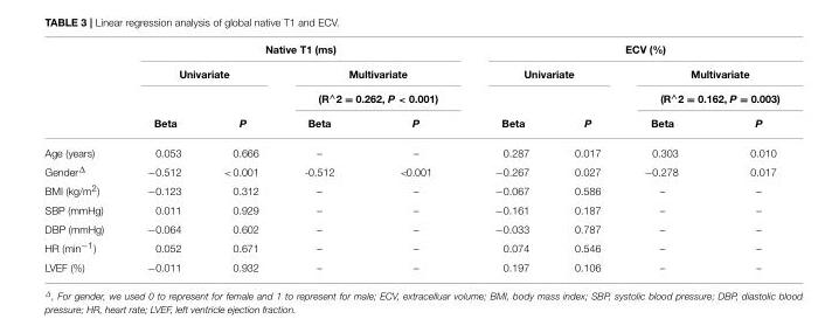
<table><thead><tr><td rowspan="4"></td><td colspan="4">Native T1 (ms)</td><td colspan="4">ECV (%)</td></tr><tr><td colspan="2">Univariate</td><td rowspan="2" colspan="2">Multivariate (R<sup>∧</sup>2 = 0.262, P &lt; 0.001)</td><td colspan="2">Univariate</td><td rowspan="2" colspan="2">Multivariate (R<sup>∧</sup>2 = 0.162, P = 0.003)</td></tr><tr><td rowspan="2">Beta</td><td rowspan="2">P</td><td rowspan="2">Beta</td><td rowspan="2">P</td></tr><tr><td>Beta</td><td>P</td><td>Beta</td><td>P</td></tr></thead><tbody><tr><td>Age (years)</td><td>0.053</td><td>0.666</td><td>–</td><td>–</td><td>0.287</td><td>0.017</td><td>0.303</td><td>0.010</td></tr><tr><td>Gender<sup>Δ</sup></td><td>−0.512</td><td>&lt;0.001</td><td>-0.512</td><td>&lt;0.001</td><td>−0.267</td><td>0.027</td><td>−0.278</td><td>0.017</td></tr><tr><td>BMI (kg/m<sup>2</sup>)</td><td>−0.123</td><td>0.312</td><td>–</td><td>–</td><td>−0.067</td><td>0.586</td><td>–</td><td>–</td></tr><tr><td>SBP (mmHg)</td><td>0.011</td><td>0.929</td><td>–</td><td>–</td><td>−0.161</td><td>0.187</td><td>–</td><td>–</td></tr><tr><td>DBP (mmHg)</td><td>−0.064</td><td>0.602</td><td>–</td><td>–</td><td>−0.033</td><td>0.787</td><td>–</td><td>–</td></tr><tr><td>HR (min<sup>−1</sup>)</td><td>0.052</td><td>0.671</td><td>–</td><td>–</td><td>0.074</td><td>0.546</td><td>–</td><td>–</td></tr><tr><td>LVEF (%)</td><td>−0.011</td><td>0.932</td><td>–</td><td>–</td><td>0.197</td><td>0.106</td><td>–</td><td>–</td></tr></tbody></table>